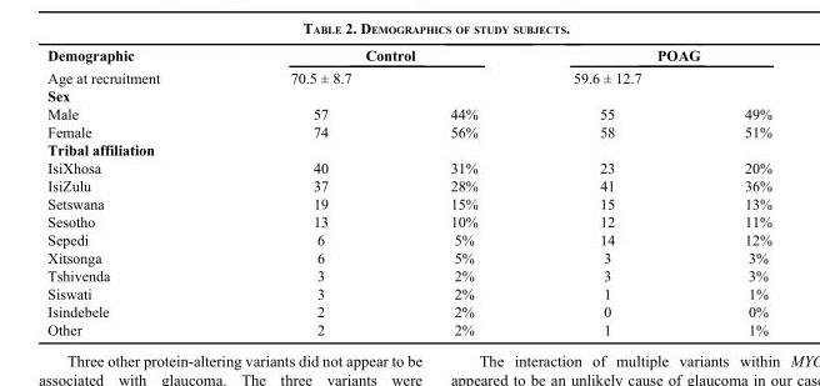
<table><thead><tr><td rowspan="2">Demographic Age at recruitment</td><td colspan="2">Control</td><td colspan="2">POAG</td></tr><tr><td>70.5 ± 8.7</td><td></td><td>59.6 ± 12.7</td><td></td></tr></thead><tbody><tr><td colspan="5">Sex</td></tr><tr><td>Male</td><td>57</td><td>44%</td><td>55</td><td>49%</td></tr><tr><td>Female</td><td>74</td><td>56%</td><td>58</td><td>51%</td></tr><tr><td colspan="5">Tribal affiliation</td></tr><tr><td>IsiXhosa</td><td>40</td><td>31%</td><td>23</td><td>20%</td></tr><tr><td>IsiZulu</td><td>37</td><td>28%</td><td>41</td><td>36%</td></tr><tr><td>Setswana</td><td>19</td><td>15%</td><td>15</td><td>13%</td></tr><tr><td>Sesotho</td><td>13</td><td>10%</td><td>12</td><td>11%</td></tr><tr><td>Sepedi</td><td>6</td><td>5%</td><td>14</td><td>12%</td></tr><tr><td>Xitsonga</td><td>6</td><td>5%</td><td>3</td><td>3%</td></tr><tr><td>Tshivenda</td><td>3</td><td>2%</td><td>3</td><td>3%</td></tr><tr><td>Siswati</td><td>3</td><td>2%</td><td>1</td><td>1%</td></tr><tr><td>Isindebele</td><td>2</td><td>2%</td><td>0</td><td>0%</td></tr><tr><td>Other</td><td>2</td><td>2%</td><td>1</td><td>1%</td></tr></tbody></table>